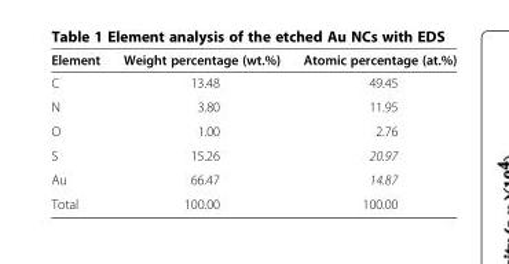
<table><thead><tr><td>Element</td><td>Weight percentage (wt.%)</td><td>Atomic percentage (at.%)</td></tr></thead><tbody><tr><td>C</td><td>13.48</td><td>49.45</td></tr><tr><td>N</td><td>3.80</td><td>11.95</td></tr><tr><td>O</td><td>1.00</td><td>2.76</td></tr><tr><td>S</td><td>15.26</td><td>20.97</td></tr><tr><td>Au</td><td>66.47</td><td>14.87</td></tr><tr><td>Total</td><td>100.00</td><td>100.00</td></tr></tbody></table>